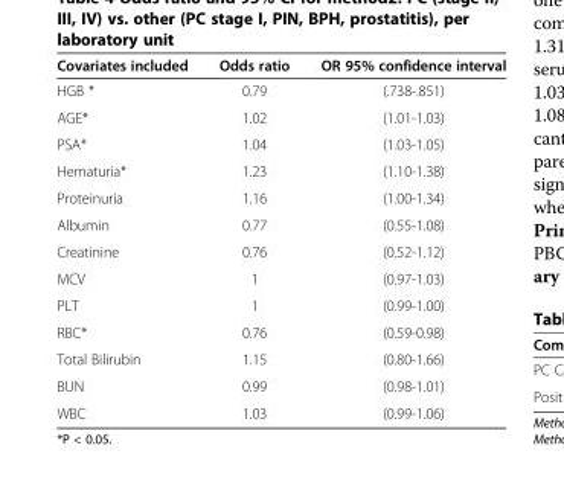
<table><thead><tr><td>Covariates included</td><td>Odds ratio</td><td>OR 95% confidence interval</td></tr></thead><tbody><tr><td>HGB *</td><td>0.79</td><td>(.738-.851)</td></tr><tr><td>AGE*</td><td>1.02</td><td>(1.01-1.03)</td></tr><tr><td>PSA*</td><td>1.04</td><td>(1.03-1.05)</td></tr><tr><td>Hematuria*</td><td>1.23</td><td>(1.10-1.38)</td></tr><tr><td>Proteinuria</td><td>1.16</td><td>(1.00-1.34)</td></tr><tr><td>Albumin</td><td>0.77</td><td>(0.55-1.08)</td></tr><tr><td>Creatinine</td><td>0.76</td><td>(0.52-1.12)</td></tr><tr><td>MCV</td><td>1</td><td>(0.97-1.03)</td></tr><tr><td>PLT</td><td>1</td><td>(0.99-1.00)</td></tr><tr><td>RBC*</td><td>0.76</td><td>(0.59-0.98)</td></tr><tr><td>Total Bilirubin</td><td>1.15</td><td>(0.80-1.66)</td></tr><tr><td>BUN</td><td>0.99</td><td>(0.98-1.01)</td></tr><tr><td>WBC</td><td>1.03</td><td>(0.99-1.06)</td></tr></tbody></table>